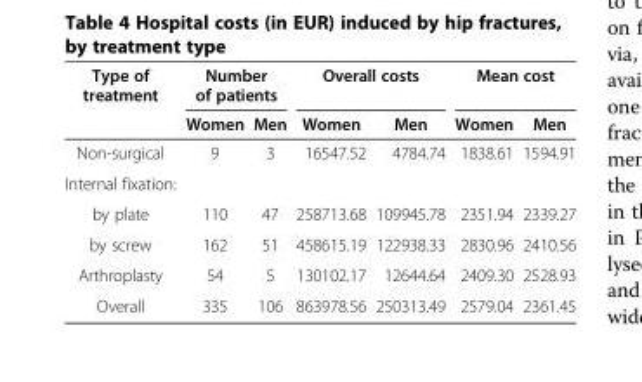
<table><thead><tr><td rowspan="2">Type of treatment</td><td colspan="2">Number of patients</td><td colspan="2">Overall costs</td><td colspan="2">Mean cost</td></tr><tr><td>Women</td><td>Men</td><td>Women</td><td>Men</td><td>Women</td><td>Men</td></tr></thead><tbody><tr><td>Non-surgical</td><td>9</td><td>3</td><td>16547.52</td><td>4784.74</td><td>1838.61</td><td>1594.91</td></tr><tr><td colspan="7">Internal fixation:</td></tr><tr><td>by plate</td><td>110</td><td>47</td><td>258713.68</td><td>109945.78</td><td>2351.94</td><td>2339.27</td></tr><tr><td>by screw</td><td>162</td><td>51</td><td>458615.19</td><td>122938.33</td><td>2830.96</td><td>2410.56</td></tr><tr><td>Arthroplasty</td><td>54</td><td>5</td><td>130102.17</td><td>12644.64</td><td>2409.30</td><td>2528.93</td></tr><tr><td>Overall</td><td>335</td><td>106</td><td>863978.56</td><td>250313.49</td><td>2579.04</td><td>2361.45</td></tr></tbody></table>